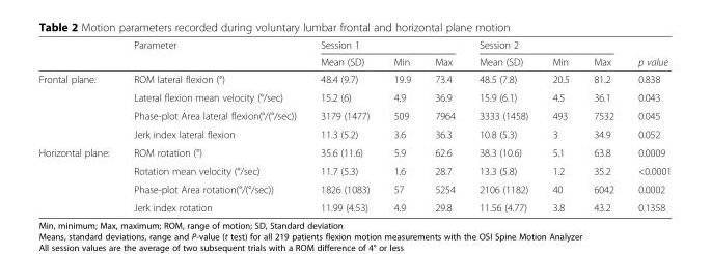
<table><thead><tr><td rowspan="2"></td><td rowspan="2">Parameter</td><td colspan="3">Session 1</td><td colspan="3">Session 2</td><td rowspan="2">p value</td></tr><tr><td>Mean (SD)</td><td>Min</td><td>Max</td><td>Mean (SD)</td><td>Min</td><td>Max</td></tr></thead><tbody><tr><td rowspan="4">Frontal plane:</td><td>ROM lateral flexion (°)</td><td>48.4 (9.7)</td><td>19.9</td><td>73.4</td><td>48.5 (7.8)</td><td>20.5</td><td>81.2</td><td>0.838</td></tr><tr><td>Lateral flexion mean velocity (°/sec)</td><td>15.2 (6)</td><td>4.9</td><td>36.9</td><td>15.9 (6.1)</td><td>4.5</td><td>36.1</td><td>0.043</td></tr><tr><td>Phase-plot Area lateral flexion(°/(°/sec))</td><td>3179 (1477)</td><td>509</td><td>7964</td><td>3333 (1458)</td><td>493</td><td>7532</td><td>0.045</td></tr><tr><td>Jerk index lateral flexion</td><td>11.3 (5.2)</td><td>3.6</td><td>36.3</td><td>10.8 (5.3)</td><td>3</td><td>34.9</td><td>0.052</td></tr><tr><td rowspan="4">Horizontal plane:</td><td>ROM rotation (°)</td><td>35.6 (11.6)</td><td>5.9</td><td>62.6</td><td>38.3 (10.6)</td><td>5.1</td><td>63.8</td><td>0.0009</td></tr><tr><td>Rotation mean velocity (°/sec)</td><td>11.7 (5.3)</td><td>1.6</td><td>28.7</td><td>13.3 (5.8)</td><td>1.2</td><td>35.2</td><td>&lt;0.0001</td></tr><tr><td>Phase-plot Area rotation(°/(°/sec))</td><td>1826 (1083)</td><td>57</td><td>5254</td><td>2106 (1182)</td><td>40</td><td>6042</td><td>0.0002</td></tr><tr><td>Jerk index rotation</td><td>11.99 (4.53)</td><td>4.9</td><td>29.8</td><td>11.56 (4.77)</td><td>3.8</td><td>43.2</td><td>0.1358</td></tr></tbody></table>